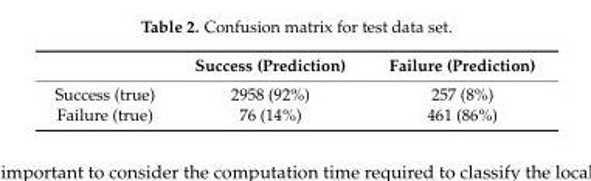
<table><thead><tr><td></td><td>Success (Prediction)</td><td>Failure (Prediction)</td></tr></thead><tbody><tr><td>Success (true)</td><td>2958 (92%)</td><td>257 (8%)</td></tr><tr><td>Failure (true)</td><td>76 (14%)</td><td>461 (86%)</td></tr></tbody></table>